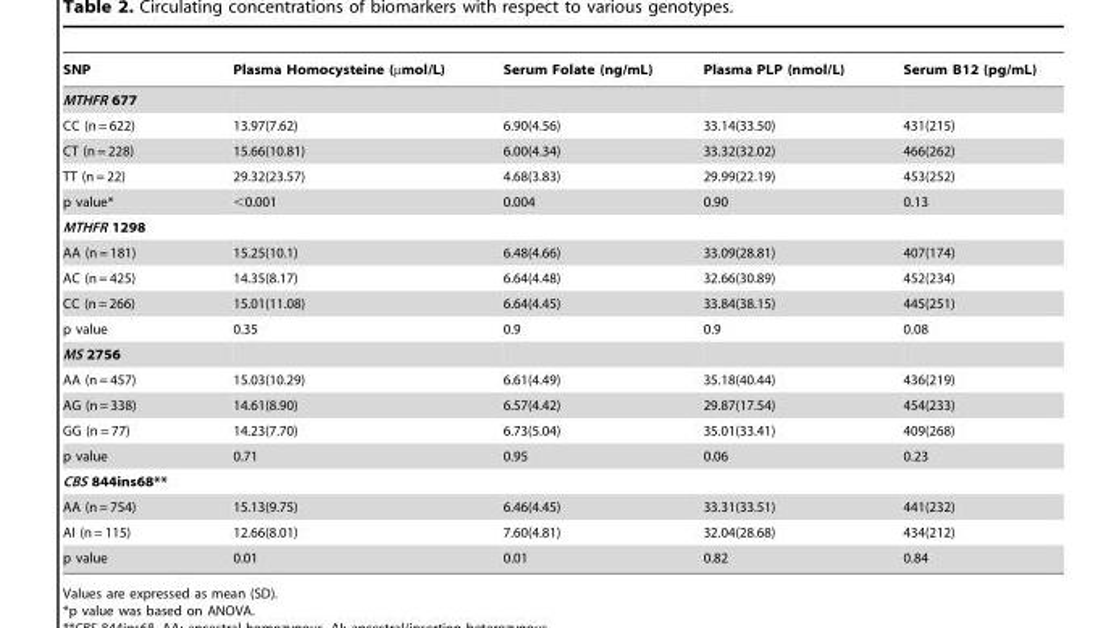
<table><thead><tr><td>SNP</td><td>Plasma Homocysteine (µmol/L)</td><td>Serum Folate (ng/mL)</td><td>Plasma PLP (nmol/L)</td><td>Serum B12 (pg/mL)</td></tr></thead><tbody><tr><td colspan="5">MTHFR 677</td></tr><tr><td>CC (n = 622)</td><td>13.97(7.62)</td><td>6.90(4.56)</td><td>33.14(33.50)</td><td>431(215)</td></tr><tr><td>CT (n = 228)</td><td>15.66(10.81)</td><td>6.00(4.34)</td><td>33.32(32.02)</td><td>466(262)</td></tr><tr><td>TT (n = 22)</td><td>29.32(23.57)</td><td>4.68(3.83)</td><td>29.99(22.19)</td><td>453(252)</td></tr><tr><td>p value*</td><td>&lt;0.001</td><td>0.004</td><td>0.90</td><td>0.13</td></tr><tr><td colspan="5">MTHFR 1298</td></tr><tr><td>AA (n = 181)</td><td>15.25(10.1)</td><td>6.48(4.66)</td><td>33.09(28.81)</td><td>407(174)</td></tr><tr><td>AC (n = 425)</td><td>14.35(8.17)</td><td>6.64(4.48)</td><td>32.66(30.89)</td><td>452(234)</td></tr><tr><td>CC (n = 266)</td><td>15.01(11.08)</td><td>6.64(4.45)</td><td>33.84(38.15)</td><td>445(251)</td></tr><tr><td>p value</td><td>0.35</td><td>0.9</td><td>0.9</td><td>0.08</td></tr><tr><td colspan="5">MS 2756</td></tr><tr><td>AA (n = 457)</td><td>15.03(10.29)</td><td>6.61(4.49)</td><td>35.18(40.44)</td><td>436(219)</td></tr><tr><td>AG (n = 338)</td><td>14.61(8.90)</td><td>6.57(4.42)</td><td>29.87(17.54)</td><td>454(233)</td></tr><tr><td>GG (n = 77)</td><td>14.23(7.70)</td><td>6.73(5.04)</td><td>35.01(33.41)</td><td>409(268)</td></tr><tr><td>p value</td><td>0.71</td><td>0.95</td><td>0.06</td><td>0.23</td></tr><tr><td colspan="5">CBS 844ins68**</td></tr><tr><td>AA (n = 754)</td><td>15.13(9.75)</td><td>6.46(4.45)</td><td>33.31(33.51)</td><td>441(232)</td></tr><tr><td>AI (n = 115)</td><td>12.66(8.01)</td><td>7.60(4.81)</td><td>32.04(28.68)</td><td>434(212)</td></tr><tr><td>p value</td><td>0.01</td><td>0.01</td><td>0.82</td><td>0.84</td></tr></tbody></table>